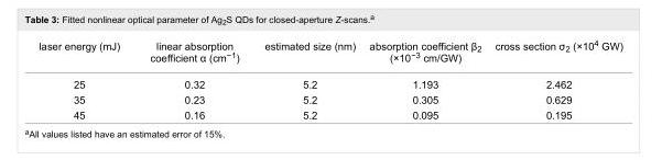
<table><tbody><tr><td>laser energy (mJ)</td><td>linear absorption coefficient α (cm<sup>−1</sup>)</td><td>estimated size (nm)</td><td>absorption coefficient β<sub>2</sub> (×10<sup>−3</sup> cm/GW)</td><td>cross section σ<sub>2</sub> (×10<sup>4</sup> GW)</td></tr><tr><td>25</td><td>0.32</td><td>5.2</td><td>1.193</td><td>2.462</td></tr><tr><td>35</td><td>0.23</td><td>5.2</td><td>0.305</td><td>0.629</td></tr><tr><td>45</td><td>0.16</td><td>5.2</td><td>0.095</td><td>0.195</td></tr></tbody></table>